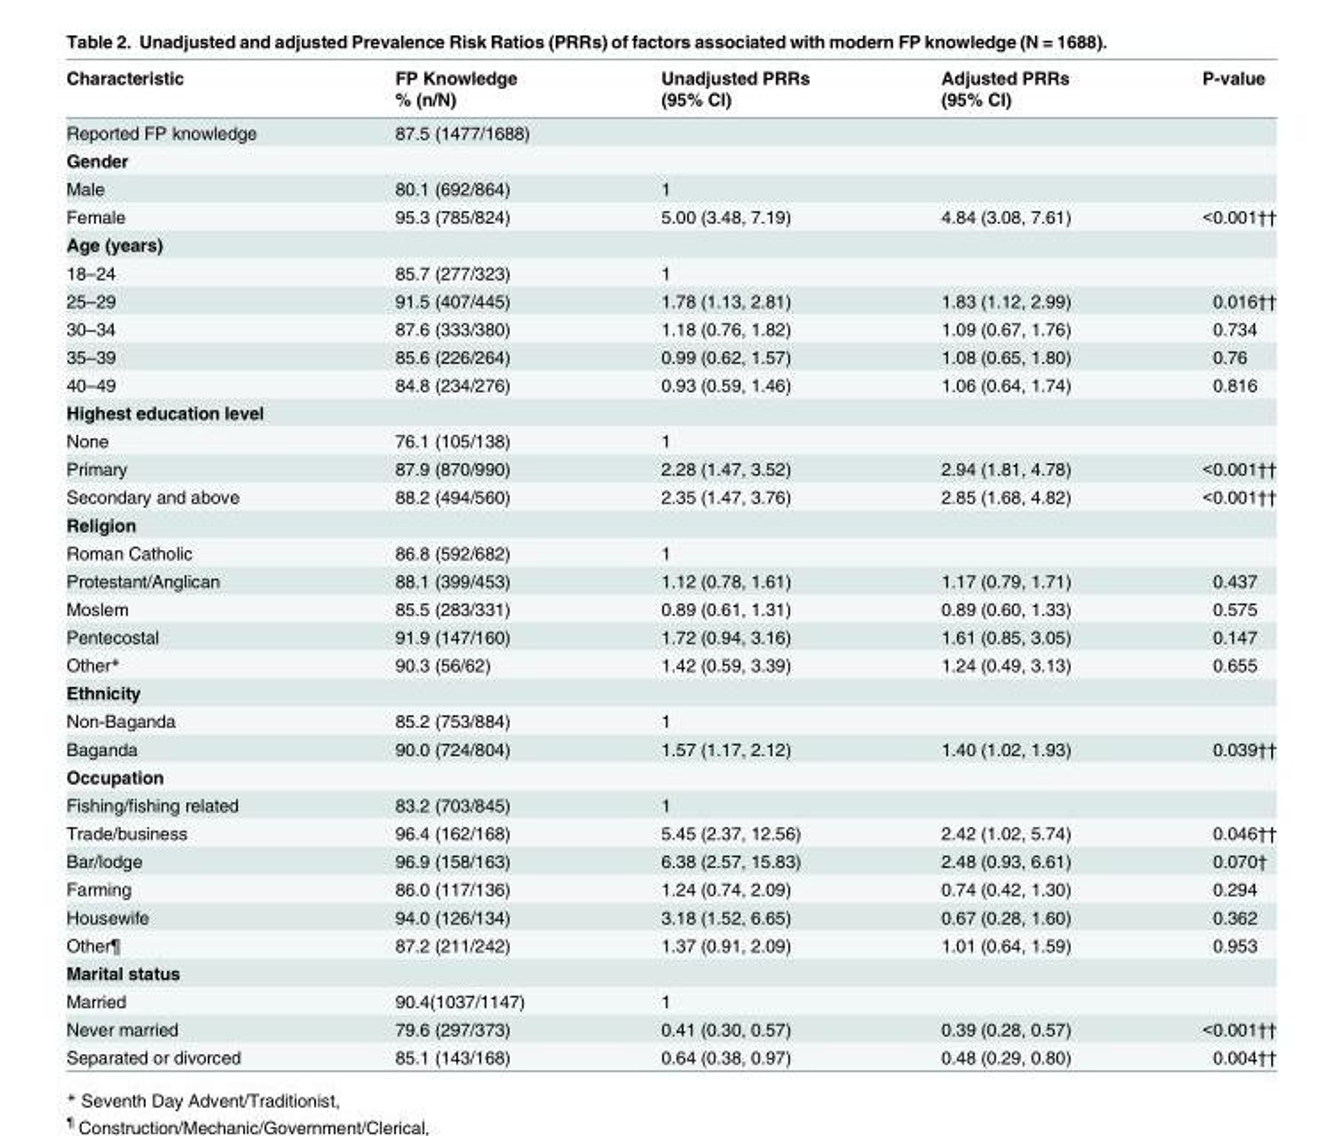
<table><thead><tr><td rowspan="2">Characteristic</td><td rowspan="2">FP Knowledge % (n/N)</td><td rowspan="2">Unadjusted PRRs (95% CI)</td><td rowspan="2">Adjusted PRRs (95% CI)</td><td rowspan="2">P-value</td></tr><tr></tr></thead><tbody><tr><td>Reported FP knowledge</td><td>87.5 (1477/1688)</td><td></td><td></td><td></td></tr><tr><td colspan="5">Gender</td></tr><tr><td>Male</td><td>80.1 (692/864)</td><td>1</td><td></td><td></td></tr><tr><td>Female</td><td>95.3 (785/824)</td><td>5.00 (3.48, 7.19)</td><td>4.84 (3.08, 7.61)</td><td>&lt;0.001††</td></tr><tr><td colspan="5">Age (years)</td></tr><tr><td>18–24</td><td>85.7 (277/323)</td><td>1</td><td></td><td></td></tr><tr><td>25–29</td><td>91.5 (407/445)</td><td>1.78 (1.13, 2.81)</td><td>1.83 (1.12, 2.99)</td><td>0.016††</td></tr><tr><td>30–34</td><td>87.6 (333/380)</td><td>1.18 (0.76, 1.82)</td><td>1.09 (0.67, 1.76)</td><td>0.734</td></tr><tr><td>35–39</td><td>85.6 (226/264)</td><td>0.99 (0.62, 1.57)</td><td>1.08 (0.65, 1.80)</td><td>0.76</td></tr><tr><td>40–49</td><td>84.8 (234/276)</td><td>0.93 (0.59, 1.46)</td><td>1.06 (0.64, 1.74)</td><td>0.816</td></tr><tr><td colspan="5">Highest education level</td></tr><tr><td>None</td><td>76.1 (105/138)</td><td>1</td><td></td><td></td></tr><tr><td>Primary</td><td>87.9 (870/990)</td><td>2.28 (1.47, 3.52)</td><td>2.94 (1.81, 4.78)</td><td>&lt;0.001††</td></tr><tr><td>Secondary and above</td><td>88.2 (494/560)</td><td>2.35 (1.47, 3.76)</td><td>2.85 (1.68, 4.82)</td><td>&lt;0.001††</td></tr><tr><td colspan="5">Religion</td></tr><tr><td>Roman Catholic</td><td>86.8 (592/682)</td><td>1</td><td></td><td></td></tr><tr><td>Protestant/Anglican</td><td>88.1 (399/453)</td><td>1.12 (0.78, 1.61)</td><td>1.17 (0.79, 1.71)</td><td>0.437</td></tr><tr><td>Moslem</td><td>85.5 (283/331)</td><td>0.89 (0.61, 1.31)</td><td>0.89 (0.60, 1.33)</td><td>0.575</td></tr><tr><td>Pentecostal</td><td>91.9 (147/160)</td><td>1.72 (0.94, 3.16)</td><td>1.61 (0.85, 3.05)</td><td>0.147</td></tr><tr><td>Other*</td><td>90.3 (56/62)</td><td>1.42 (0.59, 3.39)</td><td>1.24 (0.49, 3.13)</td><td>0.655</td></tr><tr><td colspan="5">Ethnicity</td></tr><tr><td>Non-Baganda</td><td>85.2 (753/884)</td><td>1</td><td></td><td></td></tr><tr><td>Baganda</td><td>90.0 (724/804)</td><td>1.57 (1.17, 2.12)</td><td>1.40 (1.02, 1.93)</td><td>0.039††</td></tr><tr><td colspan="5">Occupation</td></tr><tr><td>Fishing/fishing related</td><td>83.2 (703/845)</td><td>1</td><td></td><td></td></tr><tr><td>Trade/business</td><td>96.4 (162/168)</td><td>5.45 (2.37, 12.56)</td><td>2.42 (1.02, 5.74)</td><td>0.046††</td></tr><tr><td>Bar/lodge</td><td>96.9 (158/163)</td><td>6.38 (2.57, 15.83)</td><td>2.48 (0.93, 6.61)</td><td>0.070†</td></tr><tr><td>Farming</td><td>86.0 (117/136)</td><td>1.24 (0.74, 2.09)</td><td>0.74 (0.42, 1.30)</td><td>0.294</td></tr><tr><td>Housewife</td><td>94.0 (126/134)</td><td>3.18 (1.52, 6.65)</td><td>0.67 (0.28, 1.60)</td><td>0.362</td></tr><tr><td>Other¶</td><td>87.2 (211/242)</td><td>1.37 (0.91, 2.09)</td><td>1.01 (0.64, 1.59)</td><td>0.953</td></tr><tr><td colspan="5">Marital status</td></tr><tr><td>Married</td><td>90.4(1037/1147)</td><td>1</td><td></td><td></td></tr><tr><td>Never married</td><td>79.6 (297/373)</td><td>0.41 (0.30, 0.57)</td><td>0.39 (0.28, 0.57)</td><td>&lt;0.001††</td></tr><tr><td>Separated or divorced</td><td>85.1 (143/168)</td><td>0.64 (0.38, 0.97)</td><td>0.48 (0.29, 0.80)</td><td>0.004††</td></tr></tbody></table>